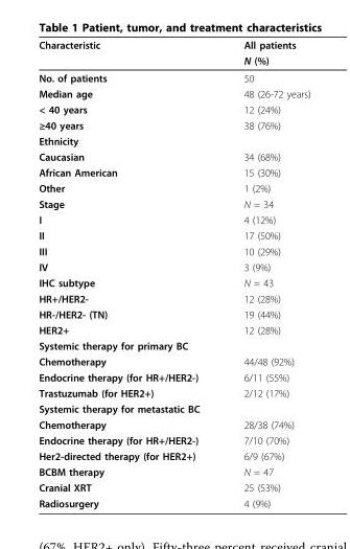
<table><thead><tr><td rowspan="2">Characteristic</td><td rowspan="2">All patients N (%)</td></tr><tr></tr></thead><tbody><tr><td>No. of patients</td><td>50</td></tr><tr><td>Median age</td><td>48 (26-72 years)</td></tr><tr><td>&lt; 40 years</td><td>12 (24%)</td></tr><tr><td>≥40 years</td><td>38 (76%)</td></tr><tr><td colspan="2">Ethnicity</td></tr><tr><td>Caucasian</td><td>34 (68%)</td></tr><tr><td>African American</td><td>15 (30%)</td></tr><tr><td>Other</td><td>1 (2%)</td></tr><tr><td>Stage</td><td>N = 34</td></tr><tr><td>I</td><td>4 (12%)</td></tr><tr><td>II</td><td>17 (50%)</td></tr><tr><td>III</td><td>10 (29%)</td></tr><tr><td>IV</td><td>3 (9%)</td></tr><tr><td>IHC subtype</td><td>N = 43</td></tr><tr><td>HR+/HER2-</td><td>12 (28%)</td></tr><tr><td>HR-/HER2- (TN)</td><td>19 (44%)</td></tr><tr><td>HER2+</td><td>12 (28%)</td></tr><tr><td colspan="2">Systemic therapy for primary BC</td></tr><tr><td>Chemotherapy</td><td>44/48 (92%)</td></tr><tr><td>Endocrine therapy (for HR+/HER2-)</td><td>6/11 (55%)</td></tr><tr><td>Trastuzumab (for HER2+)</td><td>2/12 (17%)</td></tr><tr><td colspan="2">Systemic therapy for metastatic BC</td></tr><tr><td>Chemotherapy</td><td>28/38 (74%)</td></tr><tr><td>Endocrine therapy (for HR+/HER2-)</td><td>7/10 (70%)</td></tr><tr><td>Her2-directed therapy (for HER2+)</td><td>6/9 (67%)</td></tr><tr><td>BCBM therapy</td><td>N = 47</td></tr><tr><td>Cranial XRT</td><td>25 (53%)</td></tr><tr><td>Radiosurgery</td><td>4 (9%)</td></tr></tbody></table>